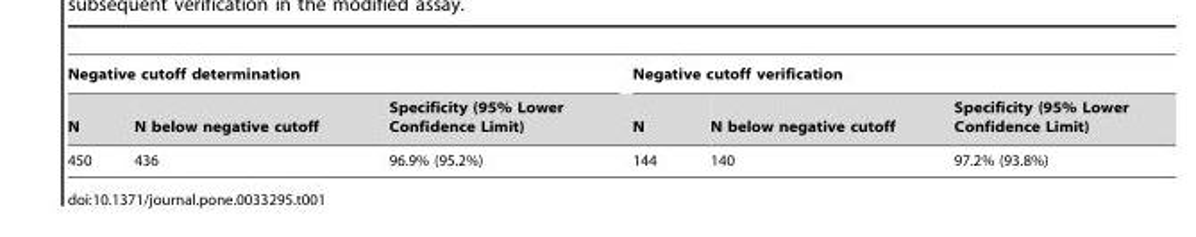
<table><thead><tr><td colspan="3">Negative cutoff determination</td><td colspan="3">Negative cutoff verification</td></tr><tr><td>N</td><td>N below negative cutoff</td><td>Specificity (95% Lower Confidence Limit)</td><td>N</td><td>N below negative cutoff</td><td>Specificity (95% Lower Confidence Limit)</td></tr></thead><tbody><tr><td>450</td><td>436</td><td>96.9% (95.2%)</td><td>144</td><td>140</td><td>97.2% (93.8%)</td></tr></tbody></table>